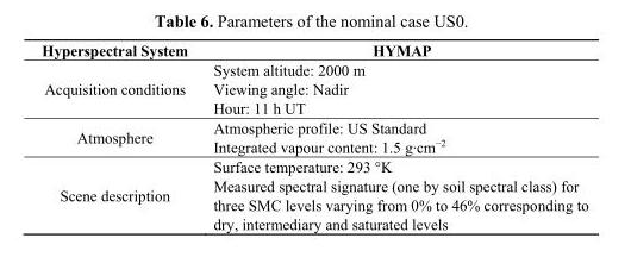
<table><thead><tr><td>Hyperspectral System</td><td>HYMAP</td></tr></thead><tbody><tr><td>Acquisition conditions</td><td>System altitude: 2000 m Viewing angle: Nadir Hour: 11 h UT</td></tr><tr><td>Atmosphere</td><td>Atmospheric profile: US Standard Integrated vapour content: 1.5 g·cm<sup>−2</sup></td></tr><tr><td>Scene description</td><td>Surface temperature: 293 °K Measured spectral signature (one by soil spectral class) for three SMC levels varying from 0% to 46% corresponding to dry, intermediary and saturated levels</td></tr></tbody></table>